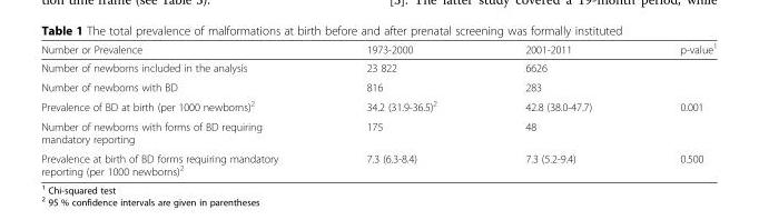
<table><thead><tr><td>Number or Prevalence</td><td>1973-2000</td><td>2001-2011</td><td>p-value<sup>1</sup></td></tr></thead><tbody><tr><td>Number of newborns included in the analysis</td><td>23 822</td><td>6626</td><td></td></tr><tr><td>Number of newborns with BD</td><td>816</td><td>283</td><td></td></tr><tr><td>Prevalence of BD at birth (per 1000 newborns)<sup>2</sup></td><td>34.2 (31.9-36.5)<sup>2</sup></td><td>42.8 (38.0-47.7)</td><td>0.001</td></tr><tr><td>Number of newborns with forms of BD requiring mandatory reporting</td><td>175</td><td>48</td><td></td></tr><tr><td>Prevalence at birth of BD forms requiring mandatory reporting (per 1000 newborns)<sup>2</sup></td><td>7.3 (6.3-8.4)</td><td>7.3 (5.2-9.4)</td><td>0.500</td></tr></tbody></table>